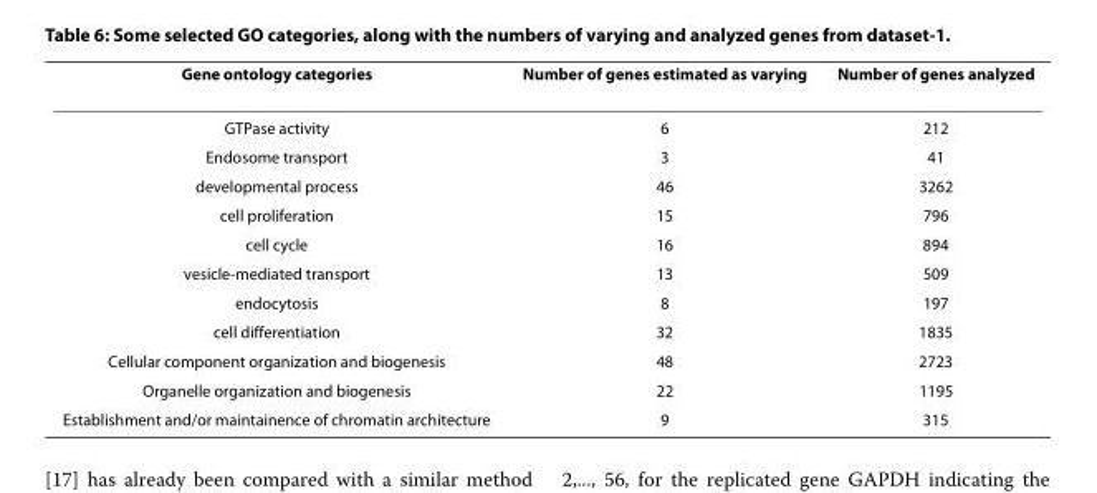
<table><thead><tr><td>Gene ontology categories</td><td>Number of genes estimated as varying</td><td>Number of genes analyzed</td></tr></thead><tbody><tr><td>GTPase activity</td><td>6</td><td>212</td></tr><tr><td>Endosome transport</td><td>3</td><td>41</td></tr><tr><td>developmental process</td><td>46</td><td>3262</td></tr><tr><td>cell proliferation</td><td>15</td><td>796</td></tr><tr><td>cell cycle</td><td>16</td><td>894</td></tr><tr><td>vesicle-mediated transport</td><td>13</td><td>509</td></tr><tr><td>endocytosis</td><td>8</td><td>197</td></tr><tr><td>cell differentiation</td><td>32</td><td>1835</td></tr><tr><td>Cellular component organization and biogenesis</td><td>48</td><td>2723</td></tr><tr><td>Organelle organization and biogenesis</td><td>22</td><td>1195</td></tr><tr><td>Establishment and/or maintainence of chromatin architecture</td><td>9</td><td>315</td></tr></tbody></table>